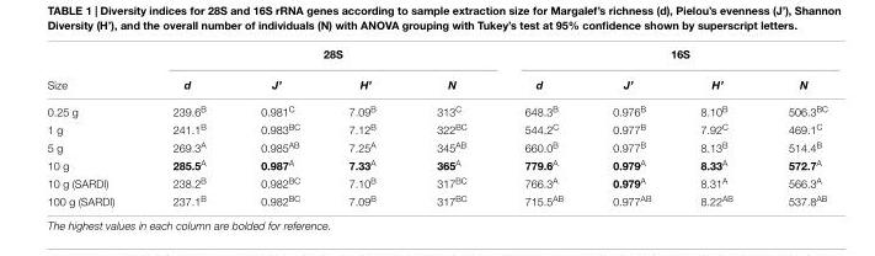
<table><thead><tr><td rowspan="2">Size</td><td colspan="4">28S</td><td colspan="4">16S</td></tr><tr><td>d</td><td>J’</td><td>H’</td><td>N</td><td>d</td><td>J’</td><td>H’</td><td>N</td></tr></thead><tbody><tr><td>0.25 g</td><td>239.6<sup>B</sup></td><td>0.981<sup>C</sup></td><td>7.09<sup>B</sup></td><td>313<sup>C</sup></td><td>648.3<sup>B</sup></td><td>0.976<sup>B</sup></td><td>8.10<sup>B</sup></td><td>506.3<sup>BC</sup></td></tr><tr><td>1 g</td><td>241.1<sup>B</sup></td><td>0.983<sup>BC</sup></td><td>7.12<sup>B</sup></td><td>322<sup>BC</sup></td><td>544.2<sup>C</sup></td><td>0.977<sup>B</sup></td><td>7.92<sup>C</sup></td><td>469.1<sup>C</sup></td></tr><tr><td>5 g</td><td>269.3<sup>A</sup></td><td>0.985<sup>AB</sup></td><td>7.25<sup>A</sup></td><td>345<sup>AB</sup></td><td>660.0<sup>B</sup></td><td>0.977<sup>B</sup></td><td>8.13<sup>B</sup></td><td>514.4<sup>B</sup></td></tr><tr><td>10 g</td><td>285.5<sup>A</sup></td><td>0.987<sup>A</sup></td><td>7.33<sup>A</sup></td><td>365<sup>A</sup></td><td>779.6<sup>A</sup></td><td>0.979<sup>A</sup></td><td>8.33<sup>A</sup></td><td>572.7<sup>A</sup></td></tr><tr><td>10 g (SARDI)</td><td>238.2<sup>B</sup></td><td>0.982<sup>BC</sup></td><td>7.10<sup>B</sup></td><td>317<sup>BC</sup></td><td>766.3<sup>A</sup></td><td>0.979<sup>A</sup></td><td>8.31<sup>A</sup></td><td>566.3<sup>A</sup></td></tr><tr><td>100 g (SARDI)</td><td>237.1<sup>B</sup></td><td>0.982<sup>BC</sup></td><td>7.09<sup>B</sup></td><td>317<sup>BC</sup></td><td>715.5<sup>AB</sup></td><td>0.977<sup>AB</sup></td><td>8.22<sup>AB</sup></td><td>537.8<sup>AB</sup></td></tr></tbody></table>